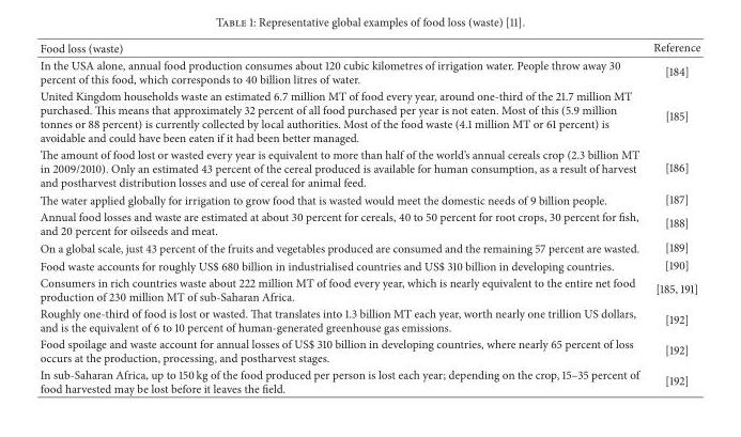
<table><thead><tr><td>Food loss (waste)</td><td>Reference</td></tr></thead><tbody><tr><td>In the USA alone, annual food production consumes about 120 cubic kilometres of irrigation water. People throw away 30 percent of this food, which corresponds to 40 billion litres of water.</td><td>[184]</td></tr><tr><td>United Kingdom households waste an estimated 6.7 million MT of food every year, around one-third of the 21.7 million MT purchased. This means that approximately 32 percent of all food purchased per year is not eaten. Most of this (5.9 million tonnes or 88 percent) is currently collected by local authorities. Most of the food waste (4.1 million MT or 61 percent) is avoidable and could have been eaten if it had been better managed.</td><td>[185]</td></tr><tr><td>The amount of food lost or wasted every year is equivalent to more than half of the world’s annual cereals crop (2.3 billion MT in 2009/2010). Only an estimated 43 percent of the cereal produced is available for human consumption, as a result of harvest and postharvest distribution losses and use of cereal for animal feed.</td><td>[186]</td></tr><tr><td>The water applied globally for irrigation to grow food that is wasted would meet the domestic needs of 9 billion people.</td><td>[187]</td></tr><tr><td>Annual food losses and waste are estimated at about 30 percent for cereals, 40 to 50 percent for root crops, 30 percent for fish, and 20 percent for oilseeds and meat.</td><td>[188]</td></tr><tr><td>On a global scale, just 43 percent of the fruits and vegetables produced are consumed and the remaining 57 percent are wasted.</td><td>[189]</td></tr><tr><td>Food waste accounts for roughly US$ 680 billion in industrialised countries and US$ 310 billion in developing countries.</td><td>[190]</td></tr><tr><td>Consumers in rich countries waste about 222 million MT of food every year, which is nearly equivalent to the entire net food production of 230 million MT of sub-Saharan Africa.</td><td>[185, 191]</td></tr><tr><td>Roughly one-third of food is lost or wasted. That translates into 1.3 billion MT each year, worth nearly one trillion US dollars, and is the equivalent of 6 to 10 percent of human-generated greenhouse gas emissions.</td><td>[192]</td></tr><tr><td>Food spoilage and waste account for annual losses of US$ 310 billion in developing countries, where nearly 65 percent of loss occurs at the production, processing, and postharvest stages.</td><td>[192]</td></tr><tr><td>In sub-Saharan Africa, up to 150 kg of the food produced per person is lost each year; depending on the crop, 15–35 percent of food harvested may be lost before it leaves the field.</td><td>[192]</td></tr></tbody></table>